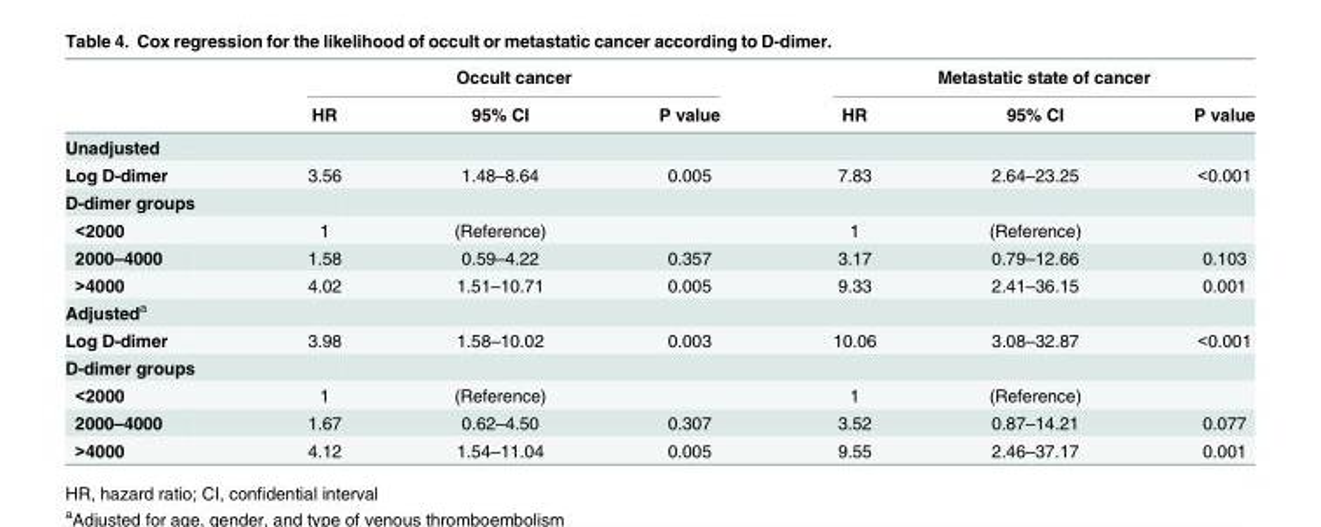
<table><thead><tr><td rowspan="2"></td><td colspan="3">Occult cancer</td><td colspan="3">Metastatic state of cancer</td></tr><tr><td>HR</td><td>95% CI</td><td>P value</td><td>HR</td><td>95% CI</td><td>P value</td></tr></thead><tbody><tr><td colspan="7">Unadjusted</td></tr><tr><td>Log D-dimer</td><td>3.56</td><td>1.48–8.64</td><td>0.005</td><td>7.83</td><td>2.64–23.25</td><td>&lt;0.001</td></tr><tr><td colspan="7">D-dimer groups</td></tr><tr><td>&lt;2000</td><td>1</td><td>(Reference)</td><td></td><td>1</td><td>(Reference)</td><td></td></tr><tr><td>2000–4000</td><td>1.58</td><td>0.59–4.22</td><td>0.357</td><td>3.17</td><td>0.79–12.66</td><td>0.103</td></tr><tr><td>&gt;4000</td><td>4.02</td><td>1.51–10.71</td><td>0.005</td><td>9.33</td><td>2.41–36.15</td><td>0.001</td></tr><tr><td colspan="7">Adjusted<sup>a</sup></td></tr><tr><td>Log D-dimer</td><td>3.98</td><td>1.58–10.02</td><td>0.003</td><td>10.06</td><td>3.08–32.87</td><td>&lt;0.001</td></tr><tr><td colspan="7">D-dimer groups</td></tr><tr><td>&lt;2000</td><td>1</td><td>(Reference)</td><td></td><td>1</td><td>(Reference)</td><td></td></tr><tr><td>2000–4000</td><td>1.67</td><td>0.62–4.50</td><td>0.307</td><td>3.52</td><td>0.87–14.21</td><td>0.077</td></tr><tr><td>&gt;4000</td><td>4.12</td><td>1.54–11.04</td><td>0.005</td><td>9.55</td><td>2.46–37.17</td><td>0.001</td></tr></tbody></table>